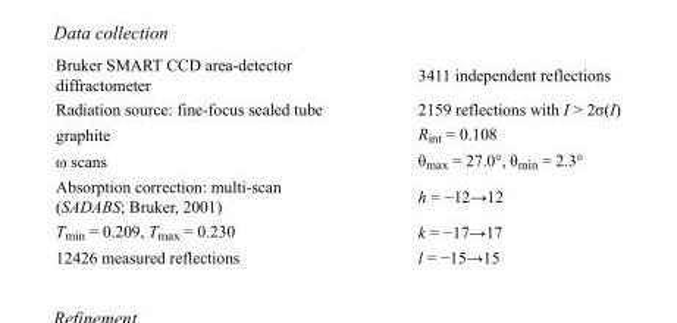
<table><tbody><tr><td>Bruker SMART CCD area-detector diffractometer</td><td>3411 independent reflections</td></tr><tr><td>Radiation source: fine-focus sealed tube</td><td>2159 reflections with I &gt; 2σ(I)</td></tr><tr><td>graphite</td><td>R<sub>int</sub> = 0.108</td></tr><tr><td>ω scans</td><td>θ<sub>max</sub> = 27.0°, θ<sub>min</sub> = 2.3°</td></tr><tr><td>Absorption correction: multi-scan (SADABS; Bruker, 2001)</td><td>h = −12→12</td></tr><tr><td>T<sub>min</sub> = 0.209, T<sub>max</sub> = 0.230</td><td>k = −17→17</td></tr><tr><td>12426 measured reflections</td><td>l = −15→15</td></tr></tbody></table>